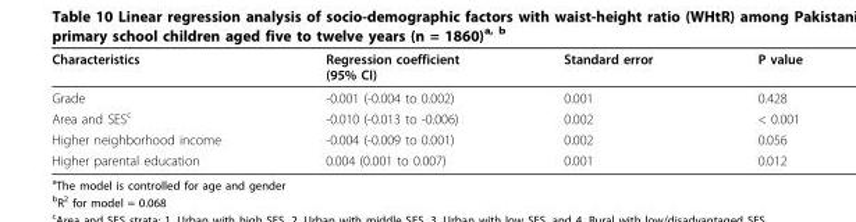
<table><thead><tr><td>Characteristics</td><td>Regression coefficient (95% CI)</td><td>Standard error</td><td>P value</td></tr></thead><tbody><tr><td>Grade</td><td>-0.001 (-0.004 to 0.002)</td><td>0.001</td><td>0.428</td></tr><tr><td>Area and SES<sup>c</sup></td><td>-0.010 (-0.013 to -0.006)</td><td>0.002</td><td>&lt; 0.001</td></tr><tr><td>Higher neighborhood income</td><td>-0.004 (-0.009 to 0.001)</td><td>0.002</td><td>0.056</td></tr><tr><td>Higher parental education</td><td>0.004 (0.001 to 0.007)</td><td>0.001</td><td>0.012</td></tr></tbody></table>